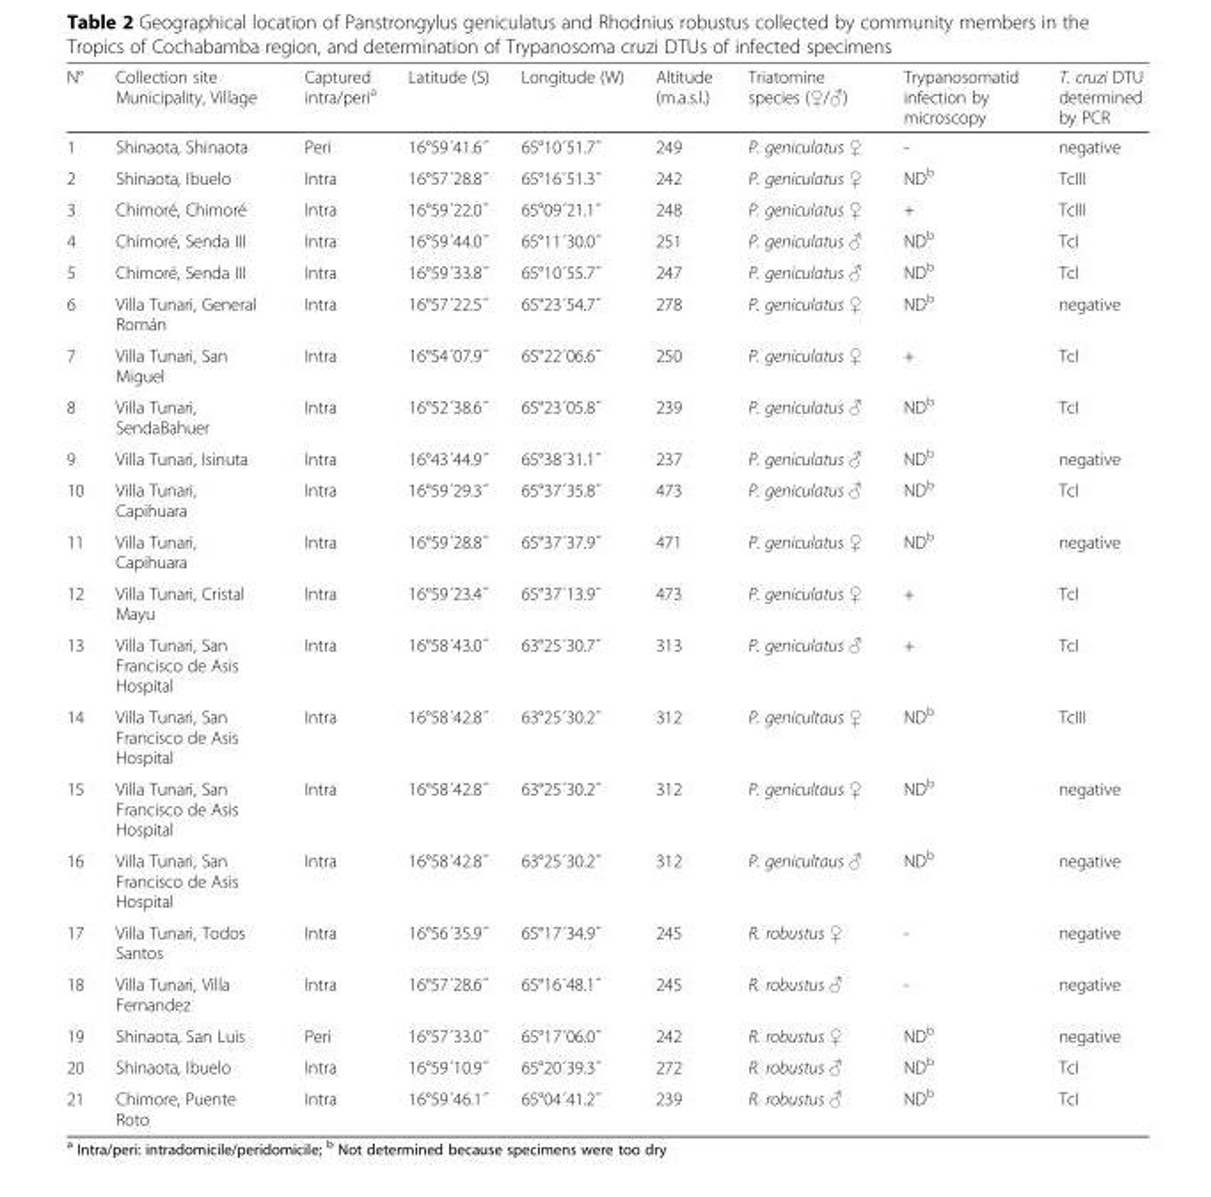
<table><thead><tr><td>N°</td><td>Collection site Municipality, Village</td><td>Captured intra/peri<sup>a</sup></td><td>Latitude (S)</td><td>Longitude (W)</td><td>Altitude (m.a.s.l.)</td><td>Triatomine species (♀/♂)</td><td>Trypanosomatid infection by microscopy</td><td>T. cruzi DTU determined by PCR</td></tr></thead><tbody><tr><td>1</td><td>Shinaota, Shinaota</td><td>Peri</td><td>16°59´41.6˝</td><td>65°10´51.7˝</td><td>249</td><td>P. geniculatus ♀</td><td>-</td><td>negative</td></tr><tr><td>2</td><td>Shinaota, Ibuelo</td><td>Intra</td><td>16°57´28.8˝</td><td>65°16´51.3˝</td><td>242</td><td>P. geniculatus ♀</td><td>ND<sup>b</sup></td><td>TcIII</td></tr><tr><td>3</td><td>Chimoré, Chimoré</td><td>Intra</td><td>16°59´22.0˝</td><td>65°09´21.1˝</td><td>248</td><td>P. geniculatus ♀</td><td>+</td><td>TcIII</td></tr><tr><td>4</td><td>Chimoré, Senda III</td><td>Intra</td><td>16°59´44.0˝</td><td>65°11´30.0˝</td><td>251</td><td>P. geniculatus ♂</td><td>ND<sup>b</sup></td><td>TcI</td></tr><tr><td>5</td><td>Chimoré, Senda III</td><td>Intra</td><td>16°59´33.8˝</td><td>65°10´55.7˝</td><td>247</td><td>P. geniculatus ♂</td><td>ND<sup>b</sup></td><td>TcI</td></tr><tr><td>6</td><td>Villa Tunari, General Román</td><td>Intra</td><td>16°57´22.5˝</td><td>65°23´54.7˝</td><td>278</td><td>P. geniculatus ♀</td><td>ND<sup>b</sup></td><td>negative</td></tr><tr><td>7</td><td>Villa Tunari, San Miguel</td><td>Intra</td><td>16°54´07.9˝</td><td>65°22´06.6˝</td><td>250</td><td>P. geniculatus ♀</td><td>+</td><td>TcI</td></tr><tr><td>8</td><td>Villa Tunari, SendaBahuer</td><td>Intra</td><td>16°52´38.6˝</td><td>65°23´05.8˝</td><td>239</td><td>P. geniculatus ♂</td><td>ND<sup>b</sup></td><td>TcI</td></tr><tr><td>9</td><td>Villa Tunari, Isinuta</td><td>Intra</td><td>16°43´44.9˝</td><td>65°38´31.1˝</td><td>237</td><td>P. geniculatus ♂</td><td>ND<sup>b</sup></td><td>negative</td></tr><tr><td>10</td><td>Villa Tunari, Capihuara</td><td>Intra</td><td>16°59´29.3˝</td><td>65°37´35.8˝</td><td>473</td><td>P. geniculatus ♂</td><td>ND<sup>b</sup></td><td>TcI</td></tr><tr><td>11</td><td>Villa Tunari, Capihuara</td><td>Intra</td><td>16°59´28.8˝</td><td>65°37´37.9˝</td><td>471</td><td>P. geniculatus ♀</td><td>ND<sup>b</sup></td><td>negative</td></tr><tr><td>12</td><td>Villa Tunari, Cristal Mayu</td><td>Intra</td><td>16°59´23.4˝</td><td>65°37´13.9˝</td><td>473</td><td>P. geniculatus ♀</td><td>+</td><td>TcI</td></tr><tr><td>13</td><td>Villa Tunari, San Francisco de Asis Hospital</td><td>Intra</td><td>16°58´43.0˝</td><td>63°25´30.7˝</td><td>313</td><td>P. geniculatus ♂</td><td>+</td><td>TcI</td></tr><tr><td>14</td><td>Villa Tunari, San Francisco de Asis Hospital</td><td>Intra</td><td>16°58´42.8˝</td><td>63°25´30.2˝</td><td>312</td><td>P. genicultaus ♀</td><td>ND<sup>b</sup></td><td>TcIII</td></tr><tr><td>15</td><td>Villa Tunari, San Francisco de Asis Hospital</td><td>Intra</td><td>16°58´42.8˝</td><td>63°25´30.2˝</td><td>312</td><td>P. genicultaus ♀</td><td>ND<sup>b</sup></td><td>negative</td></tr><tr><td>16</td><td>Villa Tunari, San Francisco de Asis Hospital</td><td>Intra</td><td>16°58´42.8˝</td><td>63°25´30.2˝</td><td>312</td><td>P. genicultaus ♂</td><td>ND<sup>b</sup></td><td>negative</td></tr><tr><td>17</td><td>Villa Tunari, Todos Santos</td><td>Intra</td><td>16°56´35.9˝</td><td>65°17´34.9˝</td><td>245</td><td>R. robustus ♀</td><td>-</td><td>negative</td></tr><tr><td>18</td><td>Villa Tunari, Villa Fernandez</td><td>Intra</td><td>16°57´28.6˝</td><td>65°16´48.1˝</td><td>245</td><td>R. robustus ♂</td><td>-</td><td>negative</td></tr><tr><td>19</td><td>Shinaota, San Luis</td><td>Peri</td><td>16°57´33.0˝</td><td>65°17´06.0˝</td><td>242</td><td>R. robustus ♀</td><td>ND<sup>b</sup></td><td>negative</td></tr><tr><td>20</td><td>Shinaota, Ibuelo</td><td>Intra</td><td>16°59´10.9˝</td><td>65°20´39.3˝</td><td>272</td><td>R. robustus ♂</td><td>ND<sup>b</sup></td><td>TcI</td></tr><tr><td>21</td><td>Chimore, Puente Roto</td><td>Intra</td><td>16°59´46.1˝</td><td>65°04´41.2˝</td><td>239</td><td>R. robustus ♂</td><td>ND<sup>b</sup></td><td>TcI</td></tr></tbody></table>